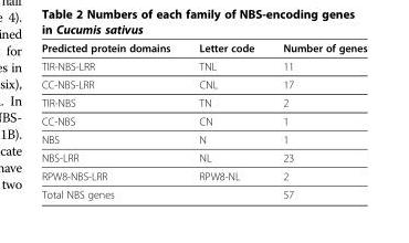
<table><thead><tr><td>Predicted protein domains</td><td>Letter code</td><td>Number of genes</td></tr></thead><tbody><tr><td>TIR-NBS-LRR</td><td>TNL</td><td>11</td></tr><tr><td>CC-NBS-LRR</td><td>CNL</td><td>17</td></tr><tr><td>TIR-NBS</td><td>TN</td><td>2</td></tr><tr><td>CC-NBS</td><td>CN</td><td>1</td></tr><tr><td>NBS</td><td>N</td><td>1</td></tr><tr><td>NBS-LRR</td><td>NL</td><td>23</td></tr><tr><td>RPW8-NBS-LRR</td><td>RPW8-NL</td><td>2</td></tr><tr><td>Total NBS genes</td><td></td><td>57</td></tr></tbody></table>